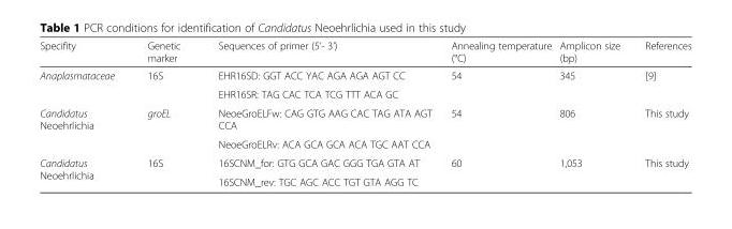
<table><thead><tr><td>Specifity</td><td>Genetic marker</td><td>Sequences of primer (5’- 3’)</td><td>Annealing temperature (°C)</td><td>Amplicon size (bp)</td><td>References</td></tr></thead><tbody><tr><td rowspan="2">Anaplasmataceae</td><td rowspan="2">16S</td><td>EHR16SD: GGT ACC YAC AGA AGA AGT CC</td><td rowspan="2">54</td><td rowspan="2">345</td><td rowspan="2">[9]</td></tr><tr><td>EHR16SR: TAG CAC TCA TCG TTT ACA GC</td></tr><tr><td rowspan="2">Candidatus Neoehrlichia</td><td rowspan="2">groEL</td><td>NeoeGroELFw: CAG GTG AAG CAC TAG ATA AGT CCA</td><td rowspan="2">54</td><td rowspan="2">806</td><td rowspan="2">This study</td></tr><tr><td>NeoeGroELRv: ACA GCA GCA ACA TGC AAT CCA</td></tr><tr><td rowspan="2">Candidatus Neoehrlichia</td><td rowspan="2">16S</td><td>16SCNM_for: GTG GCA GAC GGG TGA GTA AT</td><td rowspan="2">60</td><td rowspan="2">1,053</td><td rowspan="2">This study</td></tr><tr><td>16SCNM_rev: TGC AGC ACC TGT GTA AGG TC</td></tr></tbody></table>